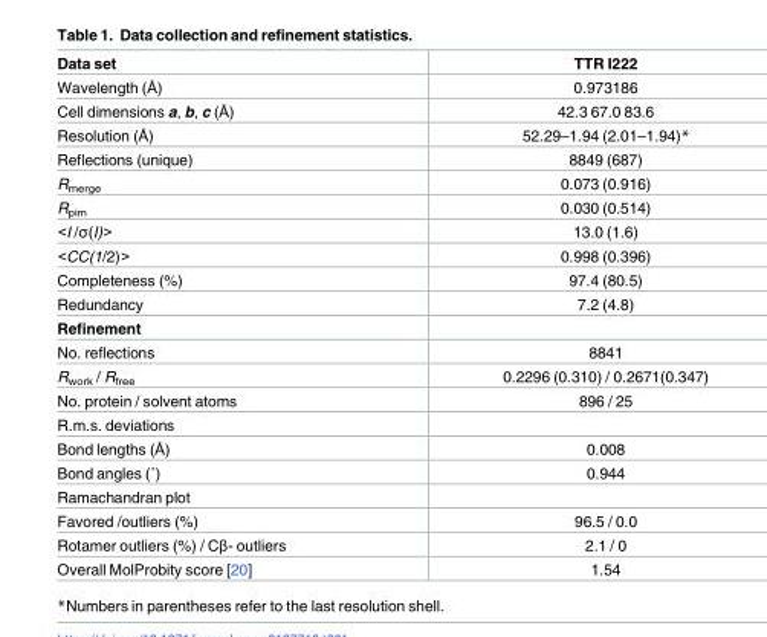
<table><thead><tr><td>Data set</td><td>TTR I222</td></tr></thead><tbody><tr><td>Wavelength (Å)</td><td>0.973186</td></tr><tr><td>Cell dimensions a, b, c (Å)</td><td>42.3 67.0 83.6</td></tr><tr><td>Resolution (Å)</td><td>52.29–1.94 (2.01–1.94)*</td></tr><tr><td>Reflections (unique)</td><td>8849 (687)</td></tr><tr><td>R<sub>merge</sub></td><td>0.073 (0.916)</td></tr><tr><td>R<sub>pim</sub></td><td>0.030 (0.514)</td></tr><tr><td>&lt;I /σ(I)&gt;</td><td>13.0 (1.6)</td></tr><tr><td>&lt;CC(1/2)&gt;</td><td>0.998 (0.396)</td></tr><tr><td>Completeness (%)</td><td>97.4 (80.5)</td></tr><tr><td>Redundancy</td><td>7.2 (4.8)</td></tr><tr><td colspan="2">Refinement</td></tr><tr><td>No. reflections</td><td>8841</td></tr><tr><td>R<sub>work</sub> / R<sub>free</sub></td><td>0.2296 (0.310) / 0.2671(0.347)</td></tr><tr><td>No. protein / solvent atoms</td><td>896 / 25</td></tr><tr><td colspan="2">R.m.s. deviations</td></tr><tr><td>Bond lengths (Å)</td><td>0.008</td></tr><tr><td>Bond angles (˚)</td><td>0.944</td></tr><tr><td colspan="2">Ramachandran plot</td></tr><tr><td>Favored /outliers (%)</td><td>96.5 / 0.0</td></tr><tr><td>Rotamer outliers (%) / Cβ- outliers</td><td>2.1 / 0</td></tr><tr><td>Overall MolProbity score [20]</td><td>1.54</td></tr></tbody></table>